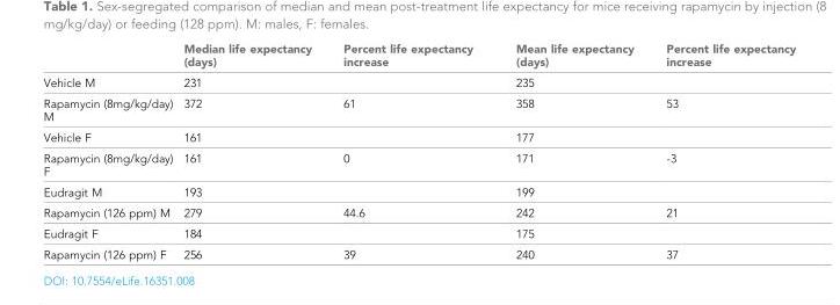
<table><thead><tr><td></td><td>Median life expectancy (days)</td><td>Percent life expectancy increase</td><td>Mean life expectancy (days)</td><td>Percent life expectancy increase</td></tr></thead><tbody><tr><td>Vehicle M</td><td>231</td><td></td><td>235</td><td></td></tr><tr><td>Rapamycin (8mg/kg/day) M</td><td>372</td><td>61</td><td>358</td><td>53</td></tr><tr><td>Vehicle F</td><td>161</td><td></td><td>177</td><td></td></tr><tr><td>Rapamycin (8mg/kg/day) F</td><td>161</td><td>0</td><td>171</td><td>-3</td></tr><tr><td>Eudragit M</td><td>193</td><td></td><td>199</td><td></td></tr><tr><td>Rapamycin (126 ppm) M</td><td>279</td><td>44.6</td><td>242</td><td>21</td></tr><tr><td>Eudragit F</td><td>184</td><td></td><td>175</td><td></td></tr><tr><td>Rapamycin (126 ppm) F</td><td>256</td><td>39</td><td>240</td><td>37</td></tr></tbody></table>